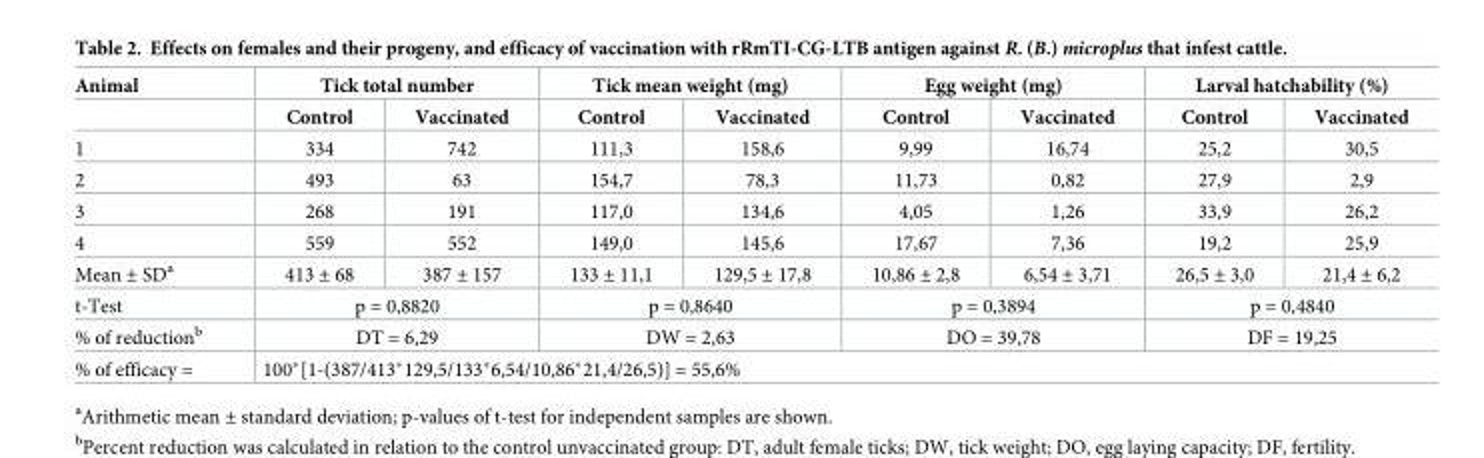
<table><thead><tr><td rowspan="2">Animal</td><td colspan="2">Tick total number</td><td colspan="2">Tick mean weight (mg)</td><td colspan="2">Egg weight (mg)</td><td colspan="2">Larval hatchability (%)</td></tr><tr><td>Control</td><td>Vaccinated</td><td>Control</td><td>Vaccinated</td><td>Control</td><td>Vaccinated</td><td>Control</td><td>Vaccinated</td></tr></thead><tbody><tr><td>1</td><td>334</td><td>742</td><td>111,3</td><td>158,6</td><td>9,99</td><td>16,74</td><td>25,2</td><td>30,5</td></tr><tr><td>2</td><td>493</td><td>63</td><td>154,7</td><td>78,3</td><td>11,73</td><td>0,82</td><td>27,9</td><td>2,9</td></tr><tr><td>3</td><td>268</td><td>191</td><td>117,0</td><td>134,6</td><td>4,05</td><td>1,26</td><td>33,9</td><td>26,2</td></tr><tr><td>4</td><td>559</td><td>552</td><td>149,0</td><td>145,6</td><td>17,67</td><td>7,36</td><td>19,2</td><td>25,9</td></tr><tr><td>Mean ± SD<sup>a</sup></td><td>413 ± 68</td><td>387 ± 157</td><td>133 ± 11,1</td><td>129,5 ± 17,8</td><td>10,86 ± 2,8</td><td>6,54 ± 3,71</td><td>26,5 ± 3,0</td><td>21,4 ± 6,2</td></tr><tr><td>t-Test</td><td colspan="2">p = 0,8820</td><td colspan="2">p = 0,8640</td><td colspan="2">p = 0,3894</td><td colspan="2">p = 0,4840</td></tr><tr><td>% of reduction<sup>b</sup></td><td colspan="2">DT = 6,29</td><td colspan="2">DW = 2,63</td><td colspan="2">DO = 39,78</td><td colspan="2">DF = 19,25</td></tr><tr><td>% of efficacy =</td><td colspan="8">100*[1-(387/413*129,5/133*6,54/10,86*21,4/26,5)] = 55,6%</td></tr></tbody></table>